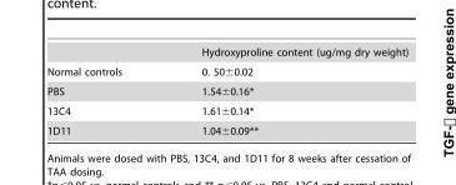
<table><thead><tr><td></td><td>Hydroxyproline content (ug/mg dry weight)</td></tr></thead><tbody><tr><td>Normal controls</td><td>0. 50±0.02</td></tr><tr><td>PBS</td><td>1.54±0.16*</td></tr><tr><td>13C4</td><td>1.61±0.14*</td></tr><tr><td>1D11</td><td>1.04±0.09**</td></tr></tbody></table>